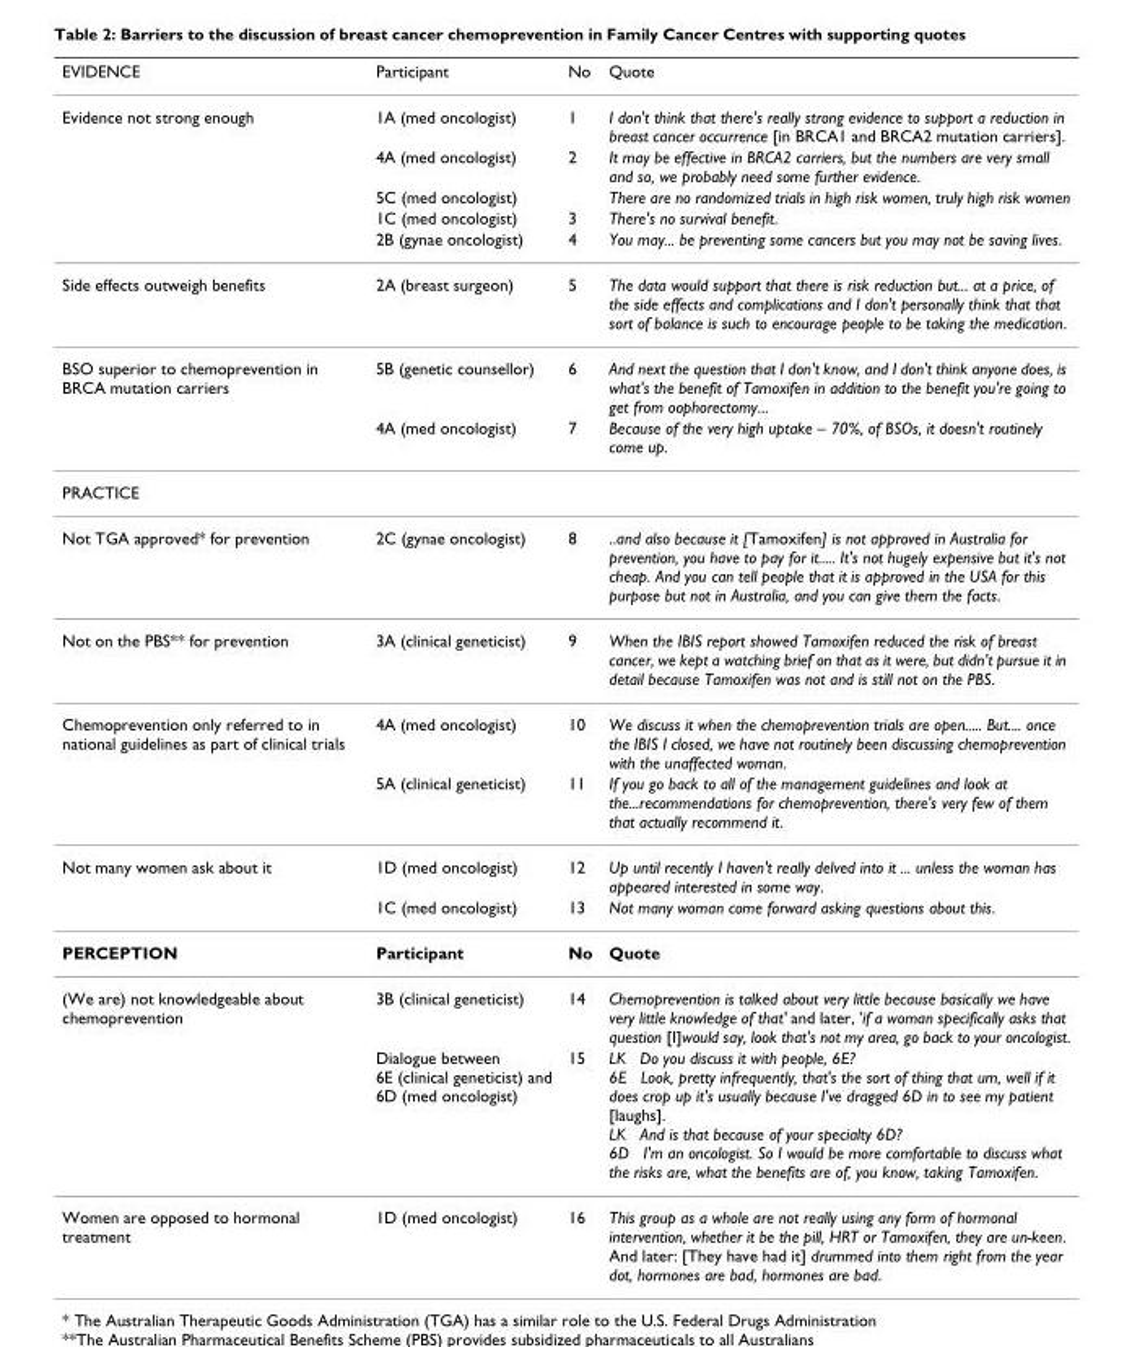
<table><thead><tr><td>EVIDENCE</td><td>Participant</td><td>No</td><td>Quote</td></tr></thead><tbody><tr><td rowspan="5">Evidence not strong enough</td><td>1A (med oncologist)</td><td>1</td><td>I don&#x27;t think that there&#x27;s really strong evidence to support a reduction in breast cancer occurrence [in BRCA1 and BRCA2 mutation carriers].</td></tr><tr><td>4A (med oncologist)</td><td>2</td><td>It may be effective in BRCA2 carriers, but the numbers are very small and so, we probably need some further evidence.</td></tr><tr><td>5C (med oncologist)</td><td></td><td>There are no randomized trials in high risk women, truly high risk women</td></tr><tr><td>1C (med oncologist)</td><td>3</td><td>There&#x27;s no survival benefit.</td></tr><tr><td>2B (gynae oncologist)</td><td>4</td><td>You may... be preventing some cancers but you may not be saving lives.</td></tr><tr><td>Side effects outweigh benefits</td><td>2A (breast surgeon)</td><td>5</td><td>The data would support that there is risk reduction but... at a price, of the side effects and complications and I don&#x27;t personally think that that sort of balance is such to encourage people to be taking the medication.</td></tr><tr><td rowspan="2">BSO superior to chemoprevention in BRCA mutation carriers</td><td>5B (genetic counsellor)</td><td>6</td><td>And next the question that I don&#x27;t know, and I don&#x27;t think anyone does, is what&#x27;s the benefit of Tamoxifen in addition to the benefit you&#x27;re going to get from oophorectomy...</td></tr><tr><td>4A (med oncologist)</td><td>7</td><td>Because of the very high uptake – 70%, of BSOs, it doesn&#x27;t routinely come up.</td></tr><tr><td colspan="4">PRACTICE</td></tr><tr><td>Not TGA approved* for prevention</td><td>2C (gynae oncologist)</td><td>8</td><td>..and also because it [Tamoxifen] is not approved in Australia for prevention, you have to pay for it..... It&#x27;s not hugely expensive but it&#x27;s not cheap. And you can tell people that it is approved in the USA for this purpose but not in Australia, and you can give them the facts.</td></tr><tr><td>Not on the PBS** for prevention</td><td>3A (clinical geneticist)</td><td>9</td><td>When the IBIS report showed Tamoxifen reduced the risk of breast cancer, we kept a watching brief on that as it were, but didn&#x27;t pursue it in detail because Tamoxifen was not and is still not on the PBS.</td></tr><tr><td rowspan="2">Chemoprevention only referred to in national guidelines as part of clinical trials</td><td>4A (med oncologist)</td><td>10</td><td>We discuss it when the chemoprevention trials are open..... But.... once the IBIS I closed, we have not routinely been discussing chemoprevention with the unaffected woman.</td></tr><tr><td>5A (clinical geneticist)</td><td>11</td><td>If you go back to all of the management guidelines and look at the...recommendations for chemoprevention, there&#x27;s very few of them that actually recommend it.</td></tr><tr><td rowspan="2">Not many women ask about it</td><td>1D (med oncologist)</td><td>12</td><td>Up until recently I haven&#x27;t really delved into it ... unless the woman has appeared interested in some way.</td></tr><tr><td>1C (med oncologist)</td><td>13</td><td>Not many woman come forward asking questions about this.</td></tr><tr><td>PERCEPTION</td><td>Participant</td><td>No</td><td>Quote</td></tr><tr><td rowspan="2">(We are) not knowledgeable about chemoprevention</td><td>3B (clinical geneticist)</td><td>14</td><td>Chemoprevention is talked about very little because basically we have very little knowledge of that&#x27; and later, &#x27;if a woman specifically asks that question [I]would say, look that&#x27;s not my area, go back to your oncologist.</td></tr><tr><td>Dialogue between 6E (clinical geneticist) and 6D (med oncologist)</td><td>15</td><td>LK Do you discuss it with people, 6E? 6E Look, pretty infrequently, that&#x27;s the sort of thing that um, well if it does crop up it&#x27;s usually because I&#x27;ve dragged 6D in to see my patient [laughs]. LK And is that because of your specialty 6D? 6D I&#x27;m an oncologist. So I would be more comfortable to discuss what the risks are, what the benefits are of, you know, taking Tamoxifen.</td></tr><tr><td>Women are opposed to hormonal treatment</td><td>1D (med oncologist)</td><td>16</td><td>This group as a whole are not really using any form of hormonal intervention, whether it be the pill, HRT or Tamoxifen, they are un-keen. And later: [They have had it] drummed into them right from the year dot, hormones are bad, hormones are bad.</td></tr></tbody></table>